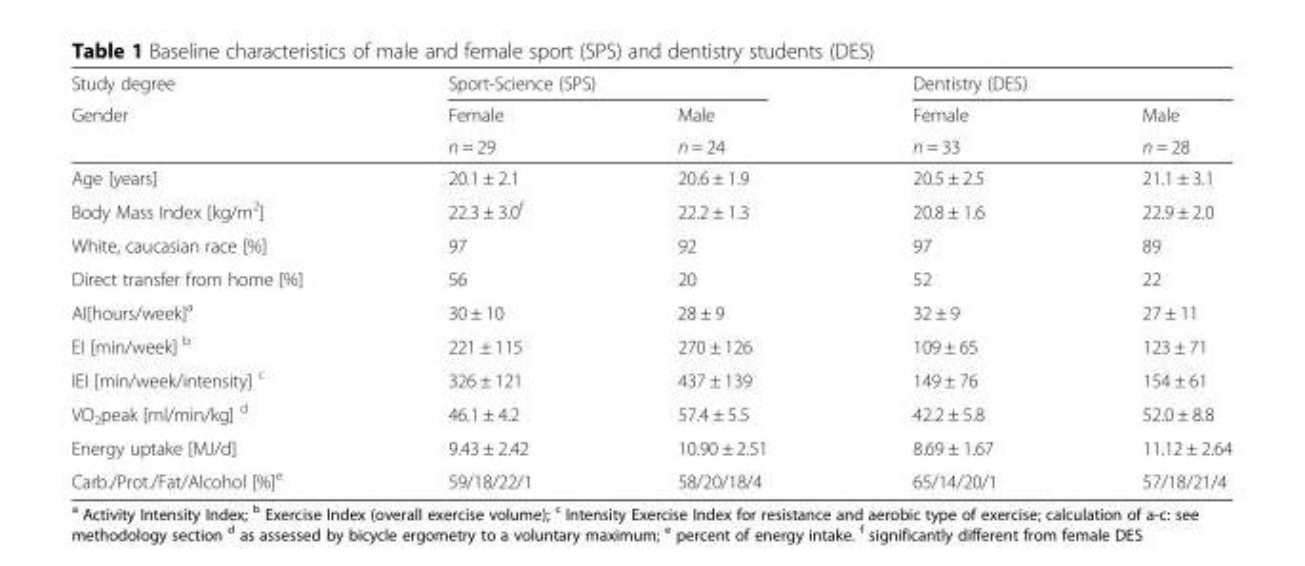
<table><thead><tr><td rowspan="3">Study degree Gender</td><td colspan="2">Sport-Science (SPS)</td><td colspan="2">Dentistry (DES)</td></tr><tr><td rowspan="2">Female n = 29</td><td rowspan="2">Male n = 24</td><td rowspan="2">Female n = 33</td><td rowspan="2">Male n = 28</td></tr><tr></tr></thead><tbody><tr><td>Age [years]</td><td>20.1 ± 2.1</td><td>20.6 ± 1.9</td><td>20.5 ± 2.5</td><td>21.1 ± 3.1</td></tr><tr><td>Body Mass Index [kg/m<sup>2</sup>]</td><td>22.3 ± 3.0<sup>f</sup></td><td>22.2 ± 1.3</td><td>20.8 ± 1.6</td><td>22.9 ± 2.0</td></tr><tr><td>White, caucasian race [%]</td><td>97</td><td>92</td><td>97</td><td>89</td></tr><tr><td>Direct transfer from home [%]</td><td>56</td><td>20</td><td>52</td><td>22</td></tr><tr><td>AI[hours/week]<sup>a</sup></td><td>30 ± 10</td><td>28 ± 9</td><td>32 ± 9</td><td>27 ± 11</td></tr><tr><td>EI [min/week] <sup>b</sup></td><td>221 ± 115</td><td>270 ± 126</td><td>109 ± 65</td><td>123 ± 71</td></tr><tr><td>IEI [min/week/intensity] <sup>c</sup></td><td>326 ± 121</td><td>437 ± 139</td><td>149 ± 76</td><td>154 ± 61</td></tr><tr><td>VO<sub>2</sub>peak [ml/min/kg] <sup>d</sup></td><td>46.1 ± 4.2</td><td>57.4 ± 5.5</td><td>42.2 ± 5.8</td><td>52.0 ± 8.8</td></tr><tr><td>Energy uptake [MJ/d]</td><td>9.43 ± 2.42</td><td>10.90 ± 2.51</td><td>8.69 ± 1.67</td><td>11.12 ± 2.64</td></tr><tr><td>Carb./Prot./Fat/Alcohol [%]<sup>e</sup></td><td>59/18/22/1</td><td>58/20/18/4</td><td>65/14/20/1</td><td>57/18/21/4</td></tr></tbody></table>